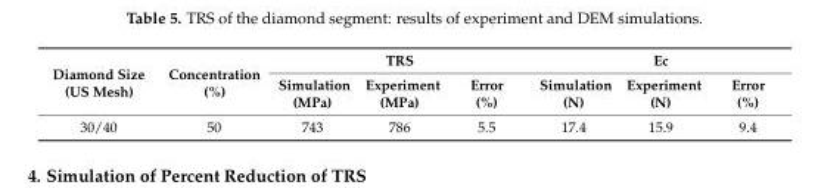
<table><thead><tr><td rowspan="2">Diamond Size (US Mesh)</td><td rowspan="2">Concentration (%)</td><td colspan="3">TRS</td><td colspan="3">Ec</td></tr><tr><td>Simulation (MPa)</td><td>Experiment (MPa)</td><td>Error (%)</td><td>Simulation (N)</td><td>Experiment (N)</td><td>Error (%)</td></tr></thead><tbody><tr><td>30/40</td><td>50</td><td>743</td><td>786</td><td>5.5</td><td>17.4</td><td>15.9</td><td>9.4</td></tr></tbody></table>